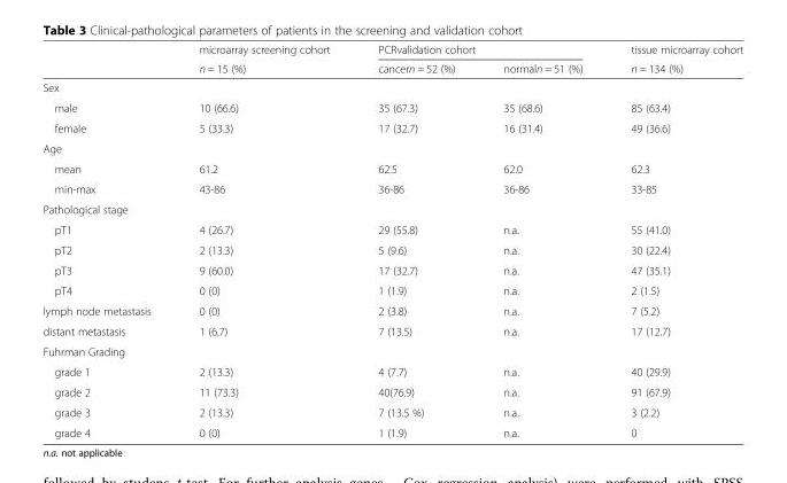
<table><thead><tr><td rowspan="2"></td><td rowspan="2">microarray screening cohort n = 15 (%)</td><td colspan="2">PCRvalidation cohort</td><td rowspan="2">tissue microarray cohort n = 134 (%)</td></tr><tr><td>cancern = 52 (%)</td><td>normaln = 51 (%)</td></tr></thead><tbody><tr><td colspan="5">Sex</td></tr><tr><td>male</td><td>10 (66.6)</td><td>35 (67.3)</td><td>35 (68.6)</td><td>85 (63.4)</td></tr><tr><td>female</td><td>5 (33.3)</td><td>17 (32.7)</td><td>16 (31.4)</td><td>49 (36.6)</td></tr><tr><td colspan="5">Age</td></tr><tr><td>mean</td><td>61.2</td><td>62.5</td><td>62.0</td><td>62.3</td></tr><tr><td>min-max</td><td>43-86</td><td>36-86</td><td>36-86</td><td>33-85</td></tr><tr><td colspan="5">Pathological stage</td></tr><tr><td>pT1</td><td>4 (26.7)</td><td>29 (55.8)</td><td>n.a.</td><td>55 (41.0)</td></tr><tr><td>pT2</td><td>2 (13.3)</td><td>5 (9.6)</td><td>n.a.</td><td>30 (22.4)</td></tr><tr><td>pT3</td><td>9 (60.0)</td><td>17 (32.7)</td><td>n.a.</td><td>47 (35.1)</td></tr><tr><td>pT4</td><td>0 (0)</td><td>1 (1.9)</td><td>n.a.</td><td>2 (1.5)</td></tr><tr><td>lymph node metastasis</td><td>0 (0)</td><td>2 (3.8)</td><td>n.a.</td><td>7 (5.2)</td></tr><tr><td>distant metastasis</td><td>1 (6.7)</td><td>7 (13.5)</td><td>n.a.</td><td>17 (12.7)</td></tr><tr><td colspan="5">Fuhrman Grading</td></tr><tr><td>grade 1</td><td>2 (13.3)</td><td>4 (7.7)</td><td>n.a.</td><td>40 (29.9)</td></tr><tr><td>grade 2</td><td>11 (73.3)</td><td>40(76.9)</td><td>n.a.</td><td>91 (67.9)</td></tr><tr><td>grade 3</td><td>2 (13.3)</td><td>7 (13.5 %)</td><td>n.a.</td><td>3 (2.2)</td></tr><tr><td>grade 4</td><td>0 (0)</td><td>1 (1.9)</td><td>n.a.</td><td>0</td></tr></tbody></table>